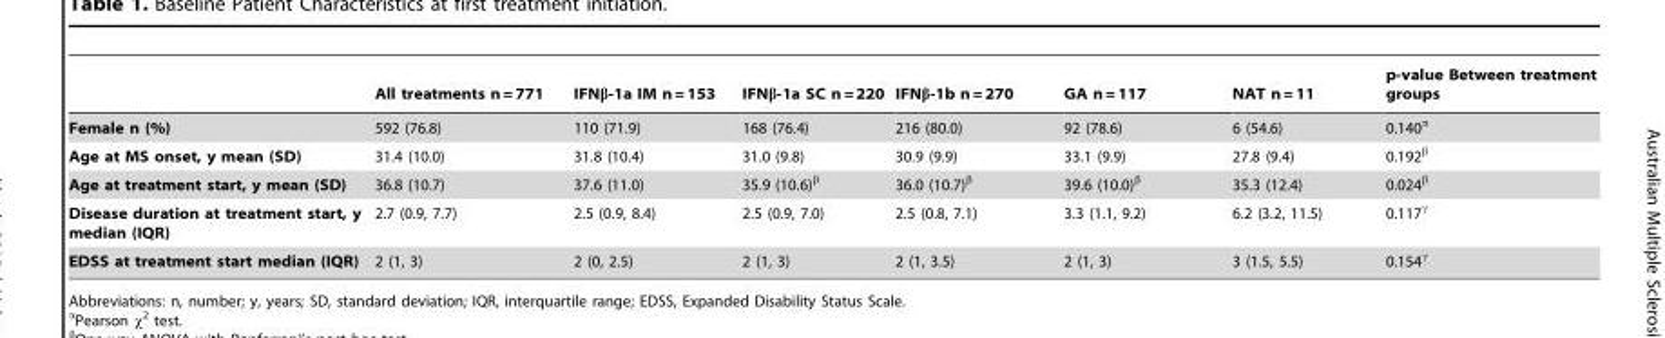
<table><thead><tr><td></td><td>All treatments n = 771</td><td>IFNβ-1a IM n = 153</td><td>IFNβ-1a SC n = 220</td><td>IFNβ-1b n = 270</td><td>GA n = 117</td><td>NAT n = 11</td><td>p-value Between treatment groups</td></tr></thead><tbody><tr><td>Female n (%)</td><td>592 (76.8)</td><td>110 (71.9)</td><td>168 (76.4)</td><td>216 (80.0)</td><td>92 (78.6)</td><td>6 (54.6)</td><td>0.140α</td></tr><tr><td>Age at MS onset, y mean (SD)</td><td>31.4 (10.0)</td><td>31.8 (10.4)</td><td>31.0 (9.8)</td><td>30.9 (9.9)</td><td>33.1 (9.9)</td><td>27.8 (9.4)</td><td>0.192β</td></tr><tr><td>Age at treatment start, y mean (SD)</td><td>36.8 (10.7)</td><td>37.6 (11.0)</td><td>35.9 (10.6)β</td><td>36.0 (10.7)β</td><td>39.6 (10.0)β</td><td>35.3 (12.4)</td><td>0.024β</td></tr><tr><td>Disease duration at treatment start, y median (IQR)</td><td>2.7 (0.9, 7.7)</td><td>2.5 (0.9, 8.4)</td><td>2.5 (0.9, 7.0)</td><td>2.5 (0.8, 7.1)</td><td>3.3 (1.1, 9.2)</td><td>6.2 (3.2, 11.5)</td><td>0.117γ</td></tr><tr><td>EDSS at treatment start median (IQR)</td><td>2 (1, 3)</td><td>2 (0, 2.5)</td><td>2 (1, 3)</td><td>2 (1, 3.5)</td><td>2 (1, 3)</td><td>3 (1.5, 5.5)</td><td>0.154γ</td></tr></tbody></table>